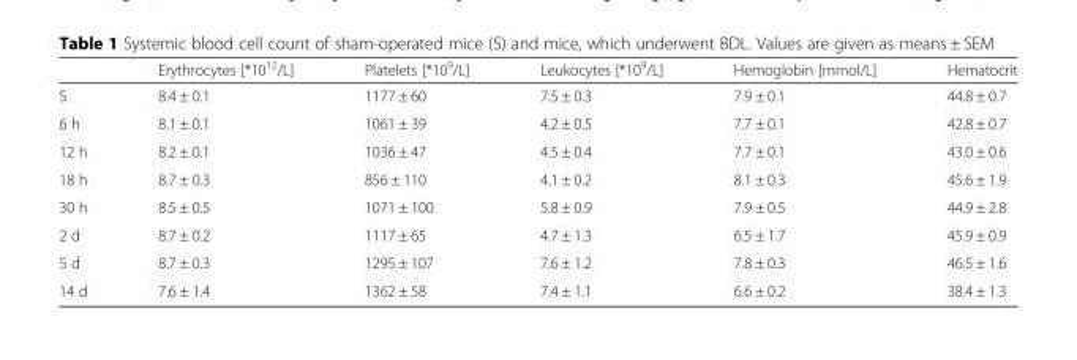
<table><thead><tr><td></td><td>Erythrocytes [*10<sup>12</sup>/L]</td><td>Platelets [*10<sup>9</sup>/L]</td><td>Leukocytes [*10<sup>9</sup>/L]</td><td>Hemoglobin [mmol/L]</td><td>Hematocrit</td></tr></thead><tbody><tr><td>S</td><td>8.4 ± 0.1</td><td>1177 ± 60</td><td>7.5 ± 0.3</td><td>7.9 ± 0.1</td><td>44.8 ± 0.7</td></tr><tr><td>6 h</td><td>8.1 ± 0.1</td><td>1061 ± 39</td><td>4.2 ± 0.5</td><td>7.7 ± 0.1</td><td>42.8 ± 0.7</td></tr><tr><td>12 h</td><td>8.2 ± 0.1</td><td>1036 ± 47</td><td>4.5 ± 0.4</td><td>7.7 ± 0.1</td><td>43.0 ± 0.6</td></tr><tr><td>18 h</td><td>8.7 ± 0.3</td><td>856 ± 110</td><td>4.1 ± 0.2</td><td>8.1 ± 0.3</td><td>45.6 ± 1.9</td></tr><tr><td>30 h</td><td>8.5 ± 0.5</td><td>1071 ± 100</td><td>5.8 ± 0.9</td><td>7.9 ± 0.5</td><td>44.9 ± 2.8</td></tr><tr><td>2 d</td><td>8.7 ± 0.2</td><td>1117 ± 65</td><td>4.7 ± 1.3</td><td>6.5 ± 1.7</td><td>45.9 ± 0.9</td></tr><tr><td>5 d</td><td>8.7 ± 0.3</td><td>1295 ± 107</td><td>7.6 ± 1.2</td><td>7.8 ± 0.3</td><td>46.5 ± 1.6</td></tr><tr><td>14 d</td><td>7.6 ± 1.4</td><td>1362 ± 58</td><td>7.4 ± 1.1</td><td>6.6 ± 0.2</td><td>38.4 ± 1.3</td></tr></tbody></table>